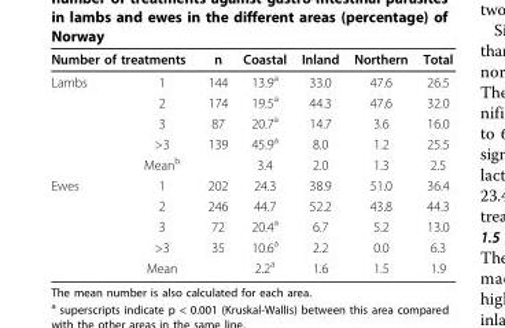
<table><thead><tr><td colspan="2">Number of treatments</td><td rowspan="2">n 144</td><td rowspan="2">Coastal 13.9<sup>a</sup></td><td rowspan="2">Inland 33.0</td><td rowspan="2">Northern 47.6</td><td rowspan="2">Total 26.5</td></tr><tr><td>Lambs</td><td>1</td></tr></thead><tbody><tr><td></td><td>2</td><td>174</td><td>19.5<sup>a</sup></td><td>44.3</td><td>47.6</td><td>32.0</td></tr><tr><td></td><td>3</td><td>87</td><td>20.7<sup>a</sup></td><td>14.7</td><td>3.6</td><td>16.0</td></tr><tr><td></td><td>&gt;3</td><td>139</td><td>45.9<sup>a</sup></td><td>8.0</td><td>1.2</td><td>25.5</td></tr><tr><td></td><td>Mean<sup>b</sup></td><td></td><td>3.4</td><td>2.0</td><td>1.3</td><td>2.5</td></tr><tr><td rowspan="5">Ewes</td><td>1</td><td>202</td><td>24.3</td><td>38.9</td><td>51.0</td><td>36.4</td></tr><tr><td>2</td><td>246</td><td>44.7</td><td>52.2</td><td>43.8</td><td>44.3</td></tr><tr><td>3</td><td>72</td><td>20.4<sup>a</sup></td><td>6.7</td><td>5.2</td><td>13.0</td></tr><tr><td>&gt;3</td><td>35</td><td>10.6<sup>a</sup></td><td>2.2</td><td>0.0</td><td>6.3</td></tr><tr><td>Mean</td><td></td><td>2.2<sup>a</sup></td><td>1.6</td><td>1.5</td><td>1.9</td></tr></tbody></table>